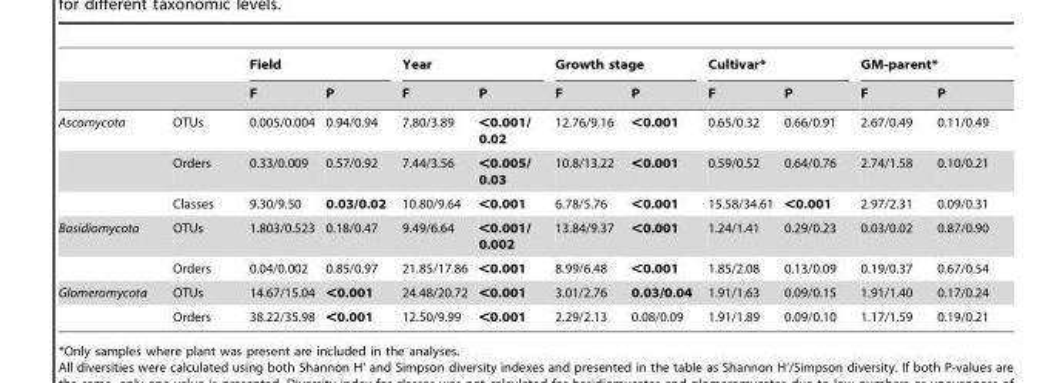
<table><thead><tr><td rowspan="2"></td><td rowspan="2"></td><td colspan="2">Field</td><td colspan="2">Year</td><td colspan="2">Growth stage</td><td colspan="2">Cultivar*</td><td colspan="2">GM-parent*</td></tr><tr><td>F</td><td>P</td><td>F</td><td>P</td><td>F</td><td>P</td><td>F</td><td>P</td><td>F</td><td>P</td></tr></thead><tbody><tr><td rowspan="3">Ascomycota</td><td>OTUs</td><td>0.005/0.004</td><td>0.94/0.94</td><td>7.80/3.89</td><td>&lt;0.001/ 0.02</td><td>12.76/9.16</td><td>&lt;0.001</td><td>0.65/0.32</td><td>0.66/0.91</td><td>2.67/0.49</td><td>0.11/0.49</td></tr><tr><td>Orders</td><td>0.33/0.009</td><td>0.57/0.92</td><td>7.44/3.56</td><td>&lt;0.005/ 0.03</td><td>10.8/13.22</td><td>&lt;0.001</td><td>0.59/0.52</td><td>0.64/0.76</td><td>2.74/1.58</td><td>0.10/0.21</td></tr><tr><td>Classes</td><td>9.30/9.50</td><td>0.03/0.02</td><td>10.80/9.64</td><td>&lt;0.001</td><td>6.78/5.76</td><td>&lt;0.001</td><td>15.58/34.61</td><td>&lt;0.001</td><td>2.97/2.31</td><td>0.09/0.31</td></tr><tr><td rowspan="2">Basidiomycota</td><td>OTUs</td><td>1.803/0.523</td><td>0.18/0.47</td><td>9.49/6.64</td><td>&lt;0.001/ 0.002</td><td>13.84/9.37</td><td>&lt;0.001</td><td>1.24/1.41</td><td>0.29/0.23</td><td>0.03/0.02</td><td>0.87/0.90</td></tr><tr><td>Orders</td><td>0.04/0.002</td><td>0.85/0.97</td><td>21.85/17.86</td><td>&lt;0.001</td><td>8.99/6.48</td><td>&lt;0.001</td><td>1.85/2.08</td><td>0.13/0.09</td><td>0.19/0.37</td><td>0.67/0.54</td></tr><tr><td rowspan="2">Glomeromycota</td><td>OTUs</td><td>14.67/15.04</td><td>&lt;0.001</td><td>24.48/20.72</td><td>&lt;0.001</td><td>3.01/2.76</td><td>0.03/0.04</td><td>1.91/1.63</td><td>0.09/0.15</td><td>1.91/1.40</td><td>0.17/0.24</td></tr><tr><td>Orders</td><td>38.22/35.98</td><td>&lt;0.001</td><td>12.50/9.99</td><td>&lt;0.001</td><td>2.29/2.13</td><td>0.08/0.09</td><td>1.91/1.89</td><td>0.09/0.10</td><td>1.17/1.59</td><td>0.19/0.21</td></tr></tbody></table>